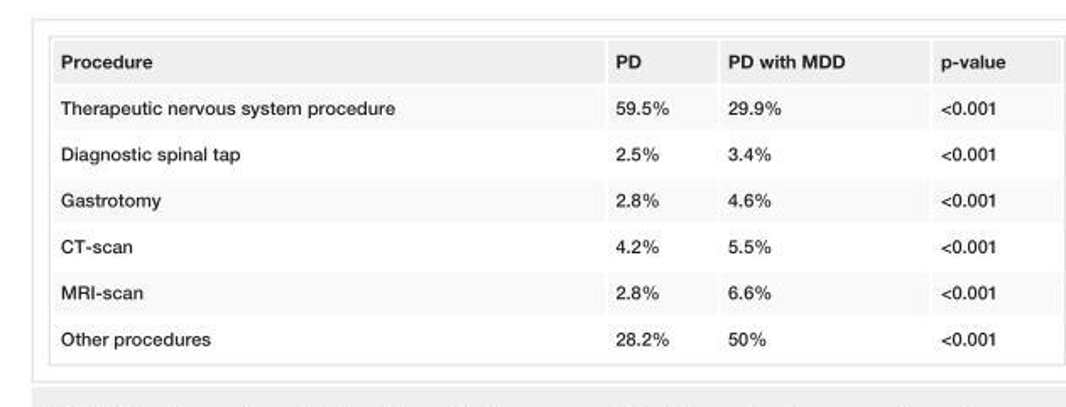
<table><tbody><tr><td>Procedure</td><td>PD</td><td>PD with MDD</td><td>p-value</td></tr><tr><td>Therapeutic nervous system procedure</td><td>59.5%</td><td>29.9%</td><td>&lt;0.001</td></tr><tr><td>Diagnostic spinal tap</td><td>2.5%</td><td>3.4%</td><td>&lt;0.001</td></tr><tr><td>Gastrotomy</td><td>2.8%</td><td>4.6%</td><td>&lt;0.001</td></tr><tr><td>CT-scan</td><td>4.2%</td><td>5.5%</td><td>&lt;0.001</td></tr><tr><td>MRI-scan</td><td>2.8%</td><td>6.6%</td><td>&lt;0.001</td></tr><tr><td>Other procedures</td><td>28.2%</td><td>50%</td><td>&lt;0.001</td></tr></tbody></table>